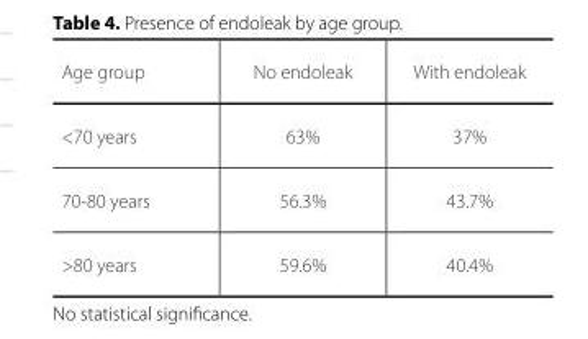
<table><thead><tr><td>Age group</td><td>No endoleak</td><td>With endoleak</td></tr></thead><tbody><tr><td>&lt;70 years</td><td>63%</td><td>37%</td></tr><tr><td>70-80 years</td><td>56.3%</td><td>43.7%</td></tr><tr><td>&gt;80 years</td><td>59.6%</td><td>40.4%</td></tr></tbody></table>